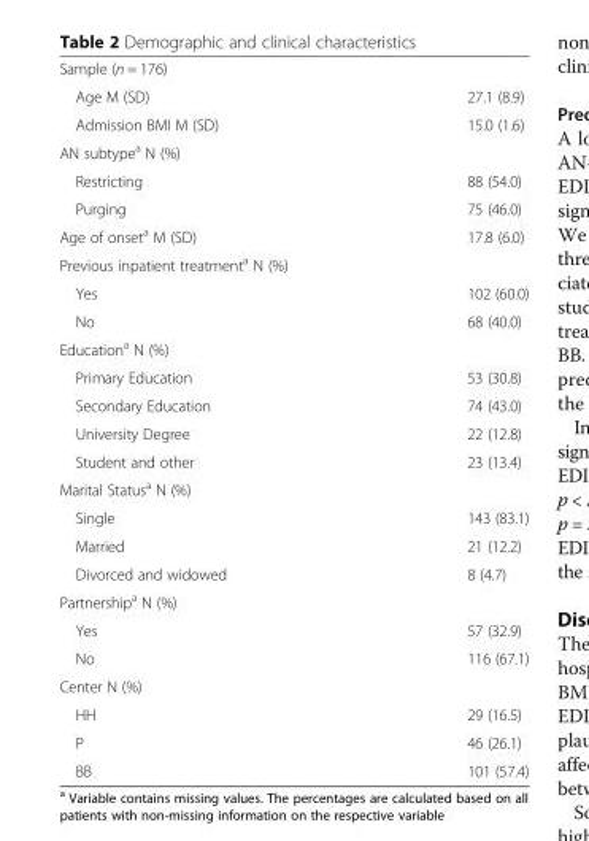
<table><tbody><tr><td colspan="2">Sample (n = 176)</td></tr><tr><td>Age M (SD)</td><td>27.1 (8.9)</td></tr><tr><td>Admission BMI M (SD)</td><td>15.0 (1.6)</td></tr><tr><td colspan="2">AN subtype<sup>a</sup> N (%)</td></tr><tr><td>Restricting</td><td>88 (54.0)</td></tr><tr><td>Purging</td><td>75 (46.0)</td></tr><tr><td>Age of onset<sup>a</sup> M (SD)</td><td>17.8 (6.0)</td></tr><tr><td colspan="2">Previous inpatient treatment<sup>a</sup> N (%)</td></tr><tr><td>Yes</td><td>102 (60.0)</td></tr><tr><td>No</td><td>68 (40.0)</td></tr><tr><td colspan="2">Education<sup>a</sup> N (%)</td></tr><tr><td>Primary Education</td><td>53 (30.8)</td></tr><tr><td>Secondary Education</td><td>74 (43.0)</td></tr><tr><td>University Degree</td><td>22 (12.8)</td></tr><tr><td>Student and other</td><td>23 (13.4)</td></tr><tr><td colspan="2">Marital Status<sup>a</sup> N (%)</td></tr><tr><td>Single</td><td>143 (83.1)</td></tr><tr><td>Married</td><td>21 (12.2)</td></tr><tr><td>Divorced and widowed</td><td>8 (4.7)</td></tr><tr><td colspan="2">Partnership<sup>a</sup> N (%)</td></tr><tr><td>Yes</td><td>57 (32.9)</td></tr><tr><td>No</td><td>116 (67.1)</td></tr><tr><td colspan="2">Center N (%)</td></tr><tr><td>HH</td><td>29 (16.5)</td></tr><tr><td>P</td><td>46 (26.1)</td></tr><tr><td>BB</td><td>101 (57.4)</td></tr></tbody></table>